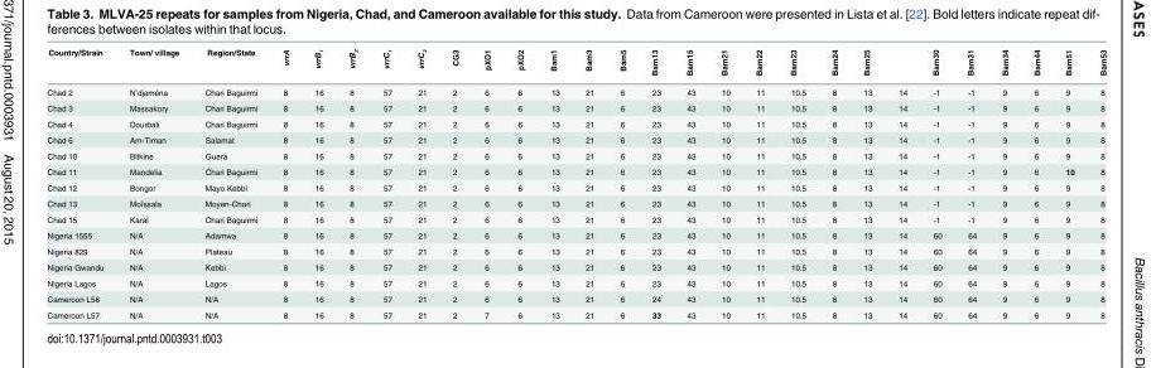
<table><thead><tr><td>Country/Strain</td><td>Town/ village</td><td>Region/State</td><td>vrrA</td><td>vrrB<sub>1</sub></td><td>vrrB<sub>2</sub></td><td>vrrC<sub>1</sub></td><td>vrrC<sub>2</sub></td><td>CG3</td><td>pXO1</td><td>pXO2</td><td>Bam1</td><td>Bam3</td><td>Bam5</td><td>Bam13</td><td>Bam15</td><td>Bam21</td><td>Bam22</td><td>Bam23</td><td>Bam24</td><td>Bam25</td><td></td><td>Bam30</td><td>Bam31</td><td>Bam34</td><td>Bam44</td><td>Bam51</td><td>Bam53</td></tr></thead><tbody><tr><td>Chad 2</td><td>N’djaména</td><td>Chari Baguirmi</td><td>8</td><td>16</td><td>8</td><td>57</td><td>21</td><td>2</td><td>6</td><td>6</td><td>13</td><td>21</td><td>6</td><td>23</td><td>43</td><td>10</td><td>11</td><td>10.5</td><td>8</td><td>13</td><td>14</td><td>-1</td><td>-1</td><td>9</td><td>6</td><td>9</td><td>8</td></tr><tr><td>Chad 3</td><td>Massakory</td><td>Chari Baguirmi</td><td>8</td><td>16</td><td>8</td><td>57</td><td>21</td><td>2</td><td>6</td><td>6</td><td>13</td><td>21</td><td>6</td><td>23</td><td>43</td><td>10</td><td>11</td><td>10.5</td><td>8</td><td>13</td><td>14</td><td>-1</td><td>-1</td><td>9</td><td>6</td><td>9</td><td>8</td></tr><tr><td>Chad 4</td><td>Dourbali</td><td>Chari Baguirmi</td><td>8</td><td>16</td><td>8</td><td>57</td><td>21</td><td>2</td><td>6</td><td>6</td><td>13</td><td>21</td><td>6</td><td>23</td><td>43</td><td>10</td><td>11</td><td>10.5</td><td>8</td><td>13</td><td>14</td><td>-1</td><td>-1</td><td>9</td><td>6</td><td>9</td><td>8</td></tr><tr><td>Chad 6</td><td>Am-Timan</td><td>Salamat</td><td>8</td><td>16</td><td>8</td><td>57</td><td>21</td><td>2</td><td>6</td><td>6</td><td>13</td><td>21</td><td>6</td><td>23</td><td>43</td><td>10</td><td>11</td><td>10.5</td><td>8</td><td>13</td><td>14</td><td>-1</td><td>-1</td><td>9</td><td>6</td><td>9</td><td>8</td></tr><tr><td>Chad 10</td><td>Bitkine</td><td>Guera</td><td>8</td><td>16</td><td>8</td><td>57</td><td>21</td><td>2</td><td>6</td><td>6</td><td>13</td><td>21</td><td>6</td><td>23</td><td>43</td><td>10</td><td>11</td><td>10.5</td><td>8</td><td>13</td><td>14</td><td>-1</td><td>-1</td><td>9</td><td>6</td><td>9</td><td>8</td></tr><tr><td>Chad 11</td><td>Mandelia</td><td>Chari Baguirmi</td><td>8</td><td>16</td><td>8</td><td>57</td><td>21</td><td>2</td><td>6</td><td>6</td><td>13</td><td>21</td><td>6</td><td>23</td><td>43</td><td>10</td><td>11</td><td>10.5</td><td>8</td><td>13</td><td>14</td><td>-1</td><td>-1</td><td>9</td><td>6</td><td>10</td><td>8</td></tr><tr><td>Chad 12</td><td>Bongor</td><td>Mayo Kebbi</td><td>8</td><td>16</td><td>8</td><td>57</td><td>21</td><td>2</td><td>6</td><td>6</td><td>13</td><td>21</td><td>6</td><td>23</td><td>43</td><td>10</td><td>11</td><td>10.5</td><td>8</td><td>13</td><td>14</td><td>-1</td><td>-1</td><td>9</td><td>6</td><td>9</td><td>8</td></tr><tr><td>Chad 13</td><td>Moîssala</td><td>Moyen-Chari</td><td>8</td><td>16</td><td>8</td><td>57</td><td>21</td><td>2</td><td>6</td><td>6</td><td>13</td><td>21</td><td>6</td><td>23</td><td>43</td><td>10</td><td>11</td><td>10.5</td><td>8</td><td>13</td><td>14</td><td>-1</td><td>-1</td><td>9</td><td>6</td><td>9</td><td>8</td></tr><tr><td>Chad 15</td><td>Karal</td><td>Chari Baguirmi</td><td>8</td><td>16</td><td>8</td><td>57</td><td>21</td><td>2</td><td>6</td><td>6</td><td>13</td><td>21</td><td>6</td><td>23</td><td>43</td><td>10</td><td>11</td><td>10.5</td><td>8</td><td>13</td><td>14</td><td>-1</td><td>-1</td><td>9</td><td>6</td><td>9</td><td>8</td></tr><tr><td>Nigeria 1555</td><td>N/A</td><td>Adamwa</td><td>8</td><td>16</td><td>8</td><td>57</td><td>21</td><td>2</td><td>6</td><td>6</td><td>13</td><td>21</td><td>6</td><td>23</td><td>43</td><td>10</td><td>11</td><td>10.5</td><td>8</td><td>13</td><td>14</td><td>60</td><td>64</td><td>9</td><td>6</td><td>9</td><td>8</td></tr><tr><td>Nigeria 829</td><td>N/A</td><td>Plateau</td><td>8</td><td>16</td><td>8</td><td>57</td><td>21</td><td>2</td><td>6</td><td>6</td><td>13</td><td>21</td><td>6</td><td>23</td><td>43</td><td>10</td><td>11</td><td>10.5</td><td>8</td><td>13</td><td>14</td><td>60</td><td>64</td><td>9</td><td>6</td><td>9</td><td>8</td></tr><tr><td>Nigeria Gwandu</td><td>N/A</td><td>Kebbi</td><td>8</td><td>16</td><td>8</td><td>57</td><td>21</td><td>2</td><td>6</td><td>6</td><td>13</td><td>21</td><td>6</td><td>23</td><td>43</td><td>10</td><td>11</td><td>10.5</td><td>8</td><td>13</td><td>14</td><td>60</td><td>64</td><td>9</td><td>6</td><td>9</td><td>8</td></tr><tr><td>Nigeria Lagos</td><td>N/A</td><td>Lagos</td><td>8</td><td>16</td><td>8</td><td>57</td><td>21</td><td>2</td><td>6</td><td>6</td><td>13</td><td>21</td><td>6</td><td>23</td><td>43</td><td>10</td><td>11</td><td>10.5</td><td>8</td><td>13</td><td>14</td><td>60</td><td>64</td><td>9</td><td>6</td><td>9</td><td>8</td></tr><tr><td>Cameroon L58</td><td>N/A</td><td>N/A</td><td>8</td><td>16</td><td>8</td><td>57</td><td>21</td><td>2</td><td>6</td><td>6</td><td>13</td><td>21</td><td>6</td><td>24</td><td>43</td><td>10</td><td>11</td><td>10.5</td><td>8</td><td>13</td><td>14</td><td>60</td><td>64</td><td>9</td><td>6</td><td>9</td><td>8</td></tr><tr><td>Cameroon L57</td><td>N/A</td><td>N/A</td><td>8</td><td>16</td><td>8</td><td>57</td><td>21</td><td>2</td><td>7</td><td>6</td><td>13</td><td>21</td><td>6</td><td>33</td><td>43</td><td>10</td><td>11</td><td>10.5</td><td>8</td><td>13</td><td>14</td><td>60</td><td>64</td><td>9</td><td>6</td><td>9</td><td>8</td></tr></tbody></table>